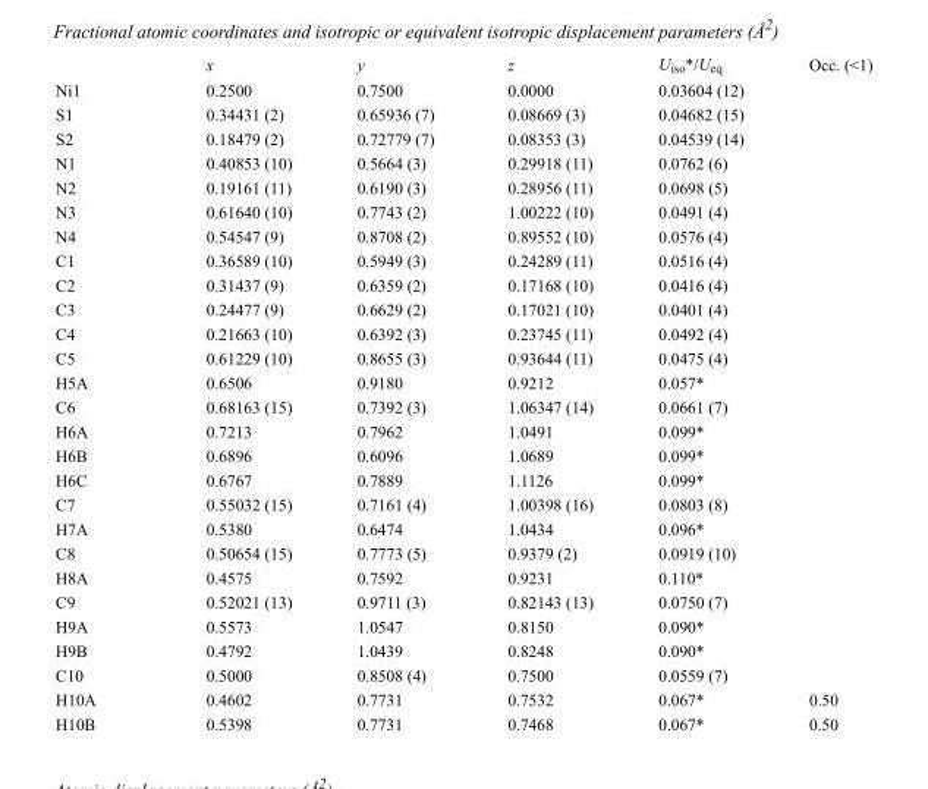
<table><thead><tr><td></td><td>x</td><td>y</td><td>z</td><td>U<sub>iso</sub>*/U<sub>eq</sub></td><td>Occ. (&lt;1)</td></tr></thead><tbody><tr><td>Ni1</td><td>0.2500</td><td>0.7500</td><td>0.0000</td><td>0.03604 (12)</td><td></td></tr><tr><td>S1</td><td>0.34431 (2)</td><td>0.65936 (7)</td><td>0.08669 (3)</td><td>0.04682 (15)</td><td></td></tr><tr><td>S2</td><td>0.18479 (2)</td><td>0.72779 (7)</td><td>0.08353 (3)</td><td>0.04539 (14)</td><td></td></tr><tr><td>N1</td><td>0.40853 (10)</td><td>0.5664 (3)</td><td>0.29918 (11)</td><td>0.0762 (6)</td><td></td></tr><tr><td>N2</td><td>0.19161 (11)</td><td>0.6190 (3)</td><td>0.28956 (11)</td><td>0.0698 (5)</td><td></td></tr><tr><td>N3</td><td>0.61640 (10)</td><td>0.7743 (2)</td><td>1.00222 (10)</td><td>0.0491 (4)</td><td></td></tr><tr><td>N4</td><td>0.54547 (9)</td><td>0.8708 (2)</td><td>0.89552 (10)</td><td>0.0576 (4)</td><td></td></tr><tr><td>C1</td><td>0.36589 (10)</td><td>0.5949 (3)</td><td>0.24289 (11)</td><td>0.0516 (4)</td><td></td></tr><tr><td>C2</td><td>0.31437 (9)</td><td>0.6359 (2)</td><td>0.17168 (10)</td><td>0.0416 (4)</td><td></td></tr><tr><td>C3</td><td>0.24477 (9)</td><td>0.6629 (2)</td><td>0.17021 (10)</td><td>0.0401 (4)</td><td></td></tr><tr><td>C4</td><td>0.21663 (10)</td><td>0.6392 (3)</td><td>0.23745 (11)</td><td>0.0492 (4)</td><td></td></tr><tr><td>C5</td><td>0.61229 (10)</td><td>0.8655 (3)</td><td>0.93644 (11)</td><td>0.0475 (4)</td><td></td></tr><tr><td>H5A</td><td>0.6506</td><td>0.9180</td><td>0.9212</td><td>0.057*</td><td></td></tr><tr><td>C6</td><td>0.68163 (15)</td><td>0.7392 (3)</td><td>1.06347 (14)</td><td>0.0661 (7)</td><td></td></tr><tr><td>H6A</td><td>0.7213</td><td>0.7962</td><td>1.0491</td><td>0.099*</td><td></td></tr><tr><td>H6B</td><td>0.6896</td><td>0.6096</td><td>1.0689</td><td>0.099*</td><td></td></tr><tr><td>H6C</td><td>0.6767</td><td>0.7889</td><td>1.1126</td><td>0.099*</td><td></td></tr><tr><td>C7</td><td>0.55032 (15)</td><td>0.7161 (4)</td><td>1.00398 (16)</td><td>0.0803 (8)</td><td></td></tr><tr><td>H7A</td><td>0.5380</td><td>0.6474</td><td>1.0434</td><td>0.096*</td><td></td></tr><tr><td>C8</td><td>0.50654 (15)</td><td>0.7773 (5)</td><td>0.9379 (2)</td><td>0.0919 (10)</td><td></td></tr><tr><td>H8A</td><td>0.4575</td><td>0.7592</td><td>0.9231</td><td>0.110*</td><td></td></tr><tr><td>C9</td><td>0.52021 (13)</td><td>0.9711 (3)</td><td>0.82143 (13)</td><td>0.0750 (7)</td><td></td></tr><tr><td>H9A</td><td>0.5573</td><td>1.0547</td><td>0.8150</td><td>0.090*</td><td></td></tr><tr><td>H9B</td><td>0.4792</td><td>1.0439</td><td>0.8248</td><td>0.090*</td><td></td></tr><tr><td>C10</td><td>0.5000</td><td>0.8508 (4)</td><td>0.7500</td><td>0.0559 (7)</td><td></td></tr><tr><td>H10A</td><td>0.4602</td><td>0.7731</td><td>0.7532</td><td>0.067*</td><td>0.50</td></tr><tr><td>H10B</td><td>0.5398</td><td>0.7731</td><td>0.7468</td><td>0.067*</td><td>0.50</td></tr></tbody></table>